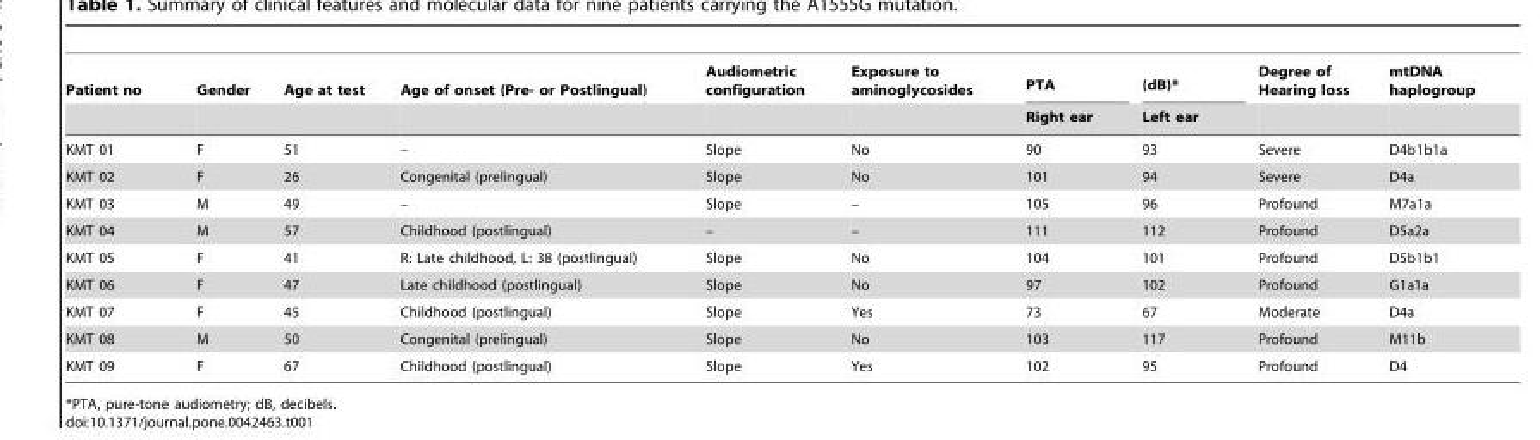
<table><thead><tr><td rowspan="2">Patient no</td><td rowspan="2">Gender</td><td rowspan="2">Age at test</td><td rowspan="2">Age of onset (Pre- or Postlingual)</td><td rowspan="2">Audiometric configuration</td><td rowspan="2">Exposure to aminoglycosides</td><td rowspan="2">PTA Right ear</td><td rowspan="2">(dB)* Left ear</td><td rowspan="2">Degree of Hearing loss</td><td rowspan="2">mtDNA haplogroup</td></tr><tr></tr></thead><tbody><tr><td>KMT 01</td><td>F</td><td>51</td><td>–</td><td>Slope</td><td>No</td><td>90</td><td>93</td><td>Severe</td><td>D4b1b1a</td></tr><tr><td>KMT 02</td><td>F</td><td>26</td><td>Congenital (prelingual)</td><td>Slope</td><td>No</td><td>101</td><td>94</td><td>Severe</td><td>D4a</td></tr><tr><td>KMT 03</td><td>M</td><td>49</td><td>–</td><td>Slope</td><td>–</td><td>105</td><td>96</td><td>Profound</td><td>M7a1a</td></tr><tr><td>KMT 04</td><td>M</td><td>57</td><td>Childhood (postlingual)</td><td>–</td><td>–</td><td>111</td><td>112</td><td>Profound</td><td>D5a2a</td></tr><tr><td>KMT 05</td><td>F</td><td>41</td><td>R: Late childhood, L: 38 (postlingual)</td><td>Slope</td><td>No</td><td>104</td><td>101</td><td>Profound</td><td>D5b1b1</td></tr><tr><td>KMT 06</td><td>F</td><td>47</td><td>Late childhood (postlingual)</td><td>Slope</td><td>No</td><td>97</td><td>102</td><td>Profound</td><td>G1a1a</td></tr><tr><td>KMT 07</td><td>F</td><td>45</td><td>Childhood (postlingual)</td><td>Slope</td><td>Yes</td><td>73</td><td>67</td><td>Moderate</td><td>D4a</td></tr><tr><td>KMT 08</td><td>M</td><td>50</td><td>Congenital (prelingual)</td><td>Slope</td><td>No</td><td>103</td><td>117</td><td>Profound</td><td>M11b</td></tr><tr><td>KMT 09</td><td>F</td><td>67</td><td>Childhood (postlingual)</td><td>Slope</td><td>Yes</td><td>102</td><td>95</td><td>Profound</td><td>D4</td></tr></tbody></table>